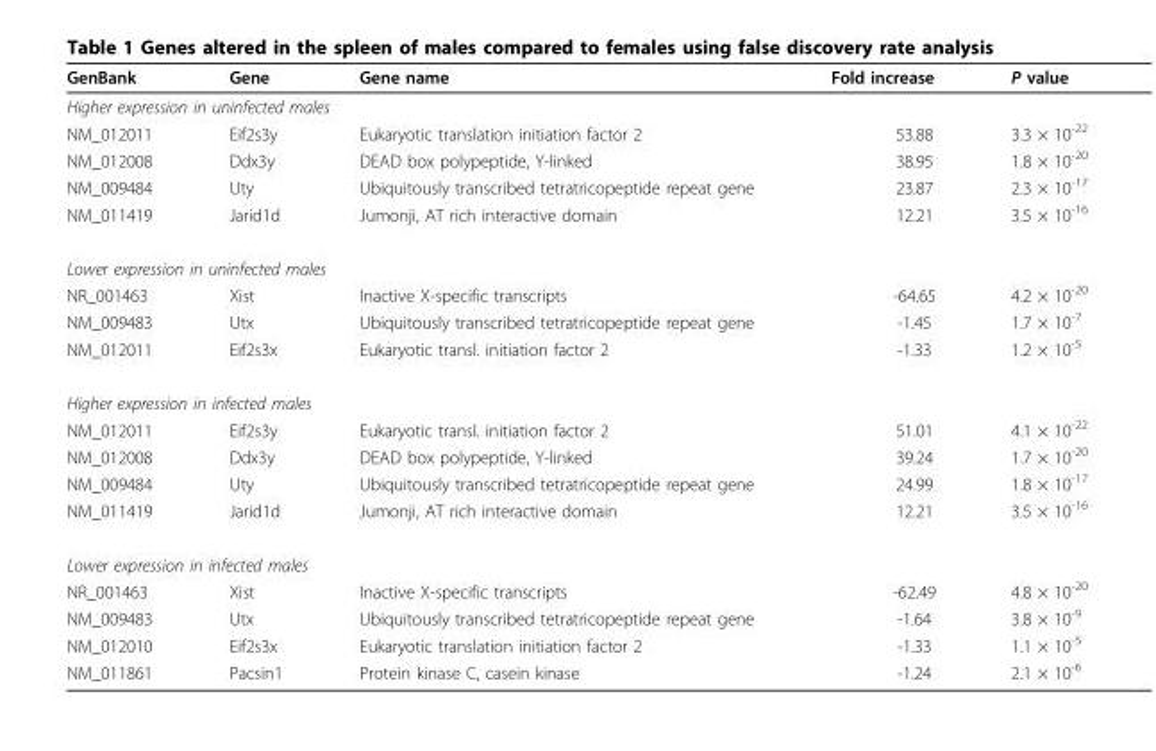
<table><thead><tr><td>GenBank</td><td>Gene</td><td>Gene name</td><td>Fold increase</td><td>P value</td></tr></thead><tbody><tr><td colspan="5">Higher expression in uninfected males</td></tr><tr><td>NM_012011</td><td>Eif2s3y</td><td>Eukaryotic translation initiation factor 2</td><td>53.88</td><td>3.3 × 10<sup>-22</sup></td></tr><tr><td>NM_012008</td><td>Ddx3y</td><td>DEAD box polypeptide, Y-linked</td><td>38.95</td><td>1.8 × 10<sup>-20</sup></td></tr><tr><td>NM_009484</td><td>Uty</td><td>Ubiquitously transcribed tetratricopeptide repeat gene</td><td>23.87</td><td>2.3 × 10<sup>-17</sup></td></tr><tr><td>NM_011419</td><td>Jarid1d</td><td>Jumonji, AT rich interactive domain</td><td>12.21</td><td>3.5 × 10<sup>-16</sup></td></tr><tr><td colspan="5">Lower expression in uninfected males</td></tr><tr><td>NR_001463</td><td>Xist</td><td>Inactive X-specific transcripts</td><td>-64.65</td><td>4.2 × 10<sup>-20</sup></td></tr><tr><td>NM_009483</td><td>Utx</td><td>Ubiquitously transcribed tetratricopeptide repeat gene</td><td>-1.45</td><td>1.7 × 10<sup>-7</sup></td></tr><tr><td>NM_012011</td><td>Eif2s3x</td><td>Eukaryotic transl. initiation factor 2</td><td>-1.33</td><td>1.2 × 10<sup>-5</sup></td></tr><tr><td colspan="5">Higher expression in infected males</td></tr><tr><td>NM_012011</td><td>Eif2s3y</td><td>Eukaryotic transl. initiation factor 2</td><td>51.01</td><td>4.1 × 10<sup>-22</sup></td></tr><tr><td>NM_012008</td><td>Ddx3y</td><td>DEAD box polypeptide, Y-linked</td><td>39.24</td><td>1.7 × 10<sup>-20</sup></td></tr><tr><td>NM_009484</td><td>Uty</td><td>Ubiquitously transcribed tetratricopeptide repeat gene</td><td>24.99</td><td>1.8 × 10<sup>-17</sup></td></tr><tr><td>NM_011419</td><td>Jarid1d</td><td>Jumonji, AT rich interactive domain</td><td>12.21</td><td>3.5 × 10<sup>-16</sup></td></tr><tr><td colspan="5">Lower expression in infected males</td></tr><tr><td>NR_001463</td><td>Xist</td><td>Inactive X-specific transcripts</td><td>-62.49</td><td>4.8 × 10<sup>-20</sup></td></tr><tr><td>NM_009483</td><td>Utx</td><td>Ubiquitously transcribed tetratricopeptide repeat gene</td><td>-1.64</td><td>3.8 × 10<sup>-9</sup></td></tr><tr><td>NM_012010</td><td>Eif2s3x</td><td>Eukaryotic translation initiation factor 2</td><td>-1.33</td><td>1.1 × 10<sup>-5</sup></td></tr><tr><td>NM_011861</td><td>Pacsin1</td><td>Protein kinase C, casein kinase</td><td>-1.24</td><td>2.1 × 10<sup>-6</sup></td></tr></tbody></table>